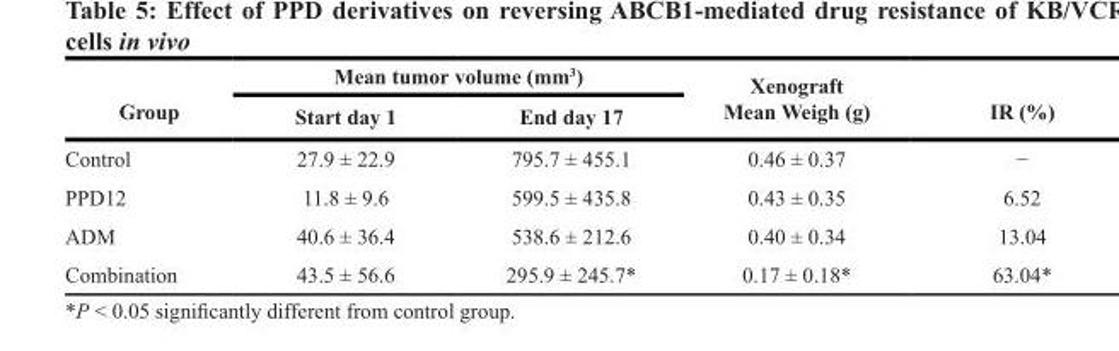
<table><thead><tr><td rowspan="2">Group</td><td colspan="2">Mean tumor volume (mm<sup>3</sup>)</td><td rowspan="2">Xenograft Mean Weigh (g)</td><td rowspan="2">IR (%)</td></tr><tr><td>Start day 1</td><td>End day 17</td></tr></thead><tbody><tr><td>Control</td><td>27.9 ± 22.9</td><td>795.7 ± 455.1</td><td>0.46 ± 0.37</td><td>−</td></tr><tr><td>PPD12</td><td>11.8 ± 9.6</td><td>599.5 ± 435.8</td><td>0.43 ± 0.35</td><td>6.52</td></tr><tr><td>ADM</td><td>40.6 ± 36.4</td><td>538.6 ± 212.6</td><td>0.40 ± 0.34</td><td>13.04</td></tr><tr><td>Combination</td><td>43.5 ± 56.6</td><td>295.9 ± 245.7*</td><td>0.17 ± 0.18*</td><td>63.04*</td></tr></tbody></table>